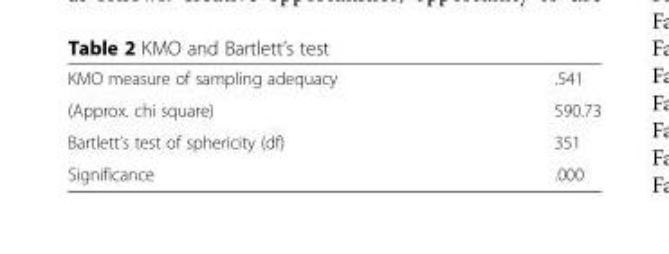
<table><tbody><tr><td>KMO measure of sampling adequacy</td><td>.541</td></tr><tr><td>(Approx. chi square)</td><td>590.73</td></tr><tr><td>Bartlett’s test of sphericity (df)</td><td>351</td></tr><tr><td>Significance</td><td>.000</td></tr></tbody></table>